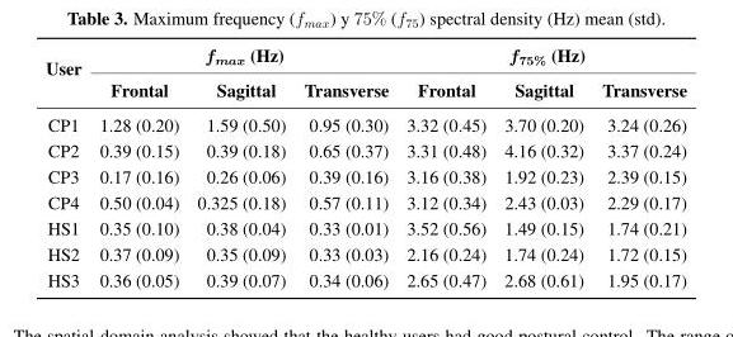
<table><thead><tr><td rowspan="2">User</td><td colspan="3">f<sub>max</sub> (Hz)</td><td colspan="3">f<sub>75%</sub> (Hz)</td></tr><tr><td>Frontal</td><td>Sagittal</td><td>Transverse</td><td>Frontal</td><td>Sagittal</td><td>Transverse</td></tr></thead><tbody><tr><td>CP1</td><td>1.28 (0.20)</td><td>1.59 (0.50)</td><td>0.95 (0.30)</td><td>3.32 (0.45)</td><td>3.70 (0.20)</td><td>3.24 (0.26)</td></tr><tr><td>CP2</td><td>0.39 (0.15)</td><td>0.39 (0.18)</td><td>0.65 (0.37)</td><td>3.31 (0.48)</td><td>4.16 (0.32)</td><td>3.37 (0.24)</td></tr><tr><td>CP3</td><td>0.17 (0.16)</td><td>0.26 (0.06)</td><td>0.39 (0.16)</td><td>3.16 (0.38)</td><td>1.92 (0.23)</td><td>2.39 (0.15)</td></tr><tr><td>CP4</td><td>0.50 (0.04)</td><td>0.325 (0.18)</td><td>0.57 (0.11)</td><td>3.12 (0.34)</td><td>2.43 (0.03)</td><td>2.29 (0.17)</td></tr><tr><td>HS1</td><td>0.35 (0.10)</td><td>0.38 (0.04)</td><td>0.33 (0.01)</td><td>3.52 (0.56)</td><td>1.49 (0.15)</td><td>1.74 (0.21)</td></tr><tr><td>HS2</td><td>0.37 (0.09)</td><td>0.35 (0.09)</td><td>0.33 (0.03)</td><td>2.16 (0.24)</td><td>1.74 (0.24)</td><td>1.72 (0.15)</td></tr><tr><td>HS3</td><td>0.36 (0.05)</td><td>0.39 (0.07)</td><td>0.34 (0.06)</td><td>2.65 (0.47)</td><td>2.68 (0.61)</td><td>1.95 (0.17)</td></tr></tbody></table>